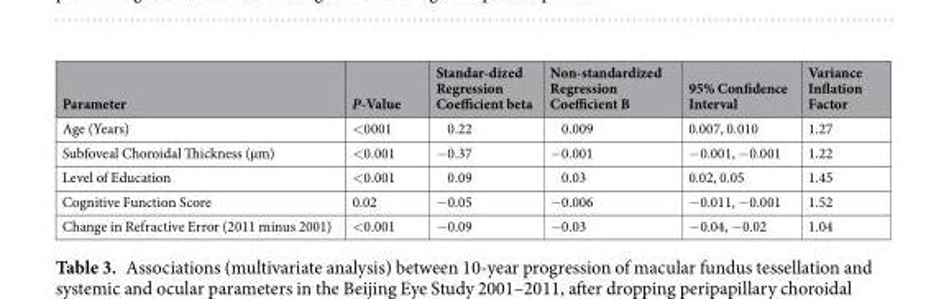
<table><thead><tr><td>Parameter</td><td>P-Value</td><td>Standar-dized Regression Coefficient beta</td><td>Non-standardized Regression Coefficient B</td><td>95% Confidence Interval</td><td>Variance Inflation Factor</td></tr></thead><tbody><tr><td>Age (Years)</td><td>&lt;0001</td><td>0.22</td><td>0.009</td><td>0.007, 0.010</td><td>1.27</td></tr><tr><td>Subfoveal Choroidal Thickness (µm)</td><td>&lt;0.001</td><td>−0.37</td><td>−0.001</td><td>−0.001, −0.001</td><td>1.22</td></tr><tr><td>Level of Education</td><td>&lt;0.001</td><td>0.09</td><td>0.03</td><td>0.02, 0.05</td><td>1.45</td></tr><tr><td>Cognitive Function Score</td><td>0.02</td><td>−0.05</td><td>−0.006</td><td>−0.011, −0.001</td><td>1.52</td></tr><tr><td>Change in Refractive Error (2011 minus 2001)</td><td>&lt;0.001</td><td>−0.09</td><td>−0.03</td><td>−0.04, −0.02</td><td>1.04</td></tr></tbody></table>